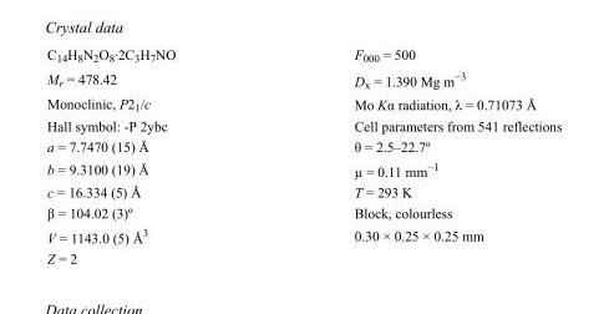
<table><tbody><tr><td>C<sub>14</sub>H<sub>8</sub>N<sub>2</sub>O<sub>8</sub>·2C<sub>3</sub>H<sub>7</sub>NO</td><td>F000 = 500</td></tr><tr><td>M<sub>r</sub> = 478.42</td><td>D<sub>x</sub> = 1.390 Mg m<sup>−3</sup></td></tr><tr><td>Monoclinic, P2<sub>1</sub>/c</td><td>Mo Kα radiation, λ = 0.71073 Å</td></tr><tr><td>Hall symbol: -P 2ybc</td><td>Cell parameters from 541 reflections</td></tr><tr><td>a = 7.7470 (15) Å</td><td>θ = 2.5–22.7º</td></tr><tr><td>b = 9.3100 (19) Å</td><td>µ = 0.11 mm<sup>−1</sup></td></tr><tr><td>c = 16.334 (5) Å</td><td>T = 293 K</td></tr><tr><td>β = 104.02 (3)º</td><td>Block, colourless</td></tr><tr><td>V = 1143.0 (5) Å<sup>3</sup></td><td>0.30 × 0.25 × 0.25 mm</td></tr><tr><td>Z = 2</td><td></td></tr></tbody></table>